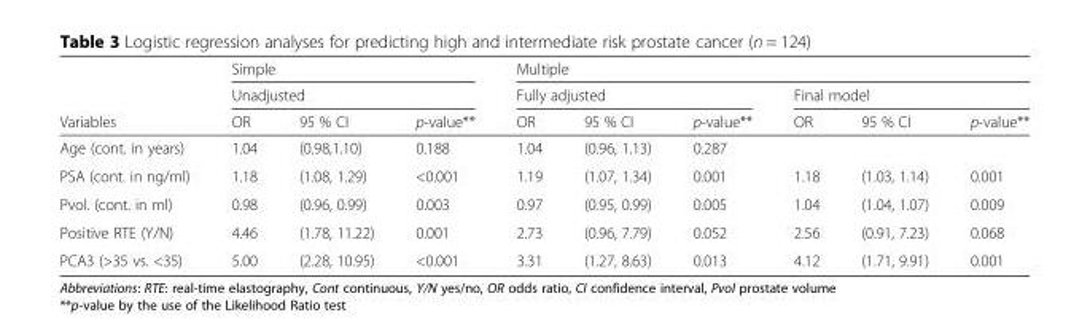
<table><thead><tr><td rowspan="3">Variables</td><td rowspan="2" colspan="3">Simple Unadjusted</td><td colspan="6">Multiple</td></tr><tr><td colspan="3">Fully adjusted</td><td colspan="3">Final model</td></tr><tr><td>OR</td><td>95 % CI</td><td>p-value**</td><td>OR</td><td>95 % CI</td><td>p-value**</td><td>OR</td><td>95 % CI</td><td>p-value**</td></tr></thead><tbody><tr><td>Age (cont. in years)</td><td>1.04</td><td>(0.98,1.10)</td><td>0.188</td><td>1.04</td><td>(0.96, 1.13)</td><td>0.287</td><td></td><td></td><td></td></tr><tr><td>PSA (cont. in ng/ml)</td><td>1.18</td><td>(1.08, 1.29)</td><td>&lt;0.001</td><td>1.19</td><td>(1.07, 1.34)</td><td>0.001</td><td>1.18</td><td>(1.03, 1.14)</td><td>0.001</td></tr><tr><td>Pvol. (cont. in ml)</td><td>0.98</td><td>(0.96, 0.99)</td><td>0.003</td><td>0.97</td><td>(0.95, 0.99)</td><td>0.005</td><td>1.04</td><td>(1.04, 1.07)</td><td>0.009</td></tr><tr><td>Positive RTE (Y/N)</td><td>4.46</td><td>(1.78, 11.22)</td><td>0.001</td><td>2.73</td><td>(0.96, 7.79)</td><td>0.052</td><td>2.56</td><td>(0.91, 7.23)</td><td>0.068</td></tr><tr><td>PCA3 (&gt;35 vs. &lt;35)</td><td>5.00</td><td>(2.28, 10.95)</td><td>&lt;0.001</td><td>3.31</td><td>(1.27, 8.63)</td><td>0.013</td><td>4.12</td><td>(1.71, 9.91)</td><td>0.001</td></tr></tbody></table>